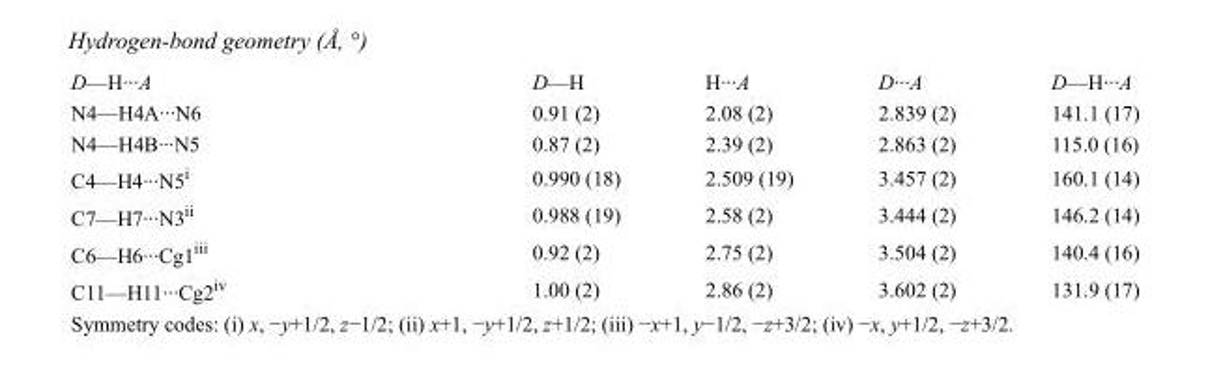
<table><tbody><tr><td>D—H···A</td><td>D—H</td><td>H···A</td><td>D···A</td><td>D—H···A</td></tr><tr><td>N4—H4A···N6</td><td>0.91 (2)</td><td>2.08 (2)</td><td>2.839 (2)</td><td>141.1 (17)</td></tr><tr><td>N4—H4B···N5</td><td>0.87 (2)</td><td>2.39 (2)</td><td>2.863 (2)</td><td>115.0 (16)</td></tr><tr><td>C4—H4···N5<sup>i</sup></td><td>0.990 (18)</td><td>2.509 (19)</td><td>3.457 (2)</td><td>160.1 (14)</td></tr><tr><td>C7—H7···N3<sup>ii</sup></td><td>0.988 (19)</td><td>2.58 (2)</td><td>3.444 (2)</td><td>146.2 (14)</td></tr><tr><td>C6—H6···Cg1<sup>iii</sup></td><td>0.92 (2)</td><td>2.75 (2)</td><td>3.504 (2)</td><td>140.4 (16)</td></tr><tr><td>C11—H11···Cg2<sup>iv</sup></td><td>1.00 (2)</td><td>2.86 (2)</td><td>3.602 (2)</td><td>131.9 (17)</td></tr></tbody></table>